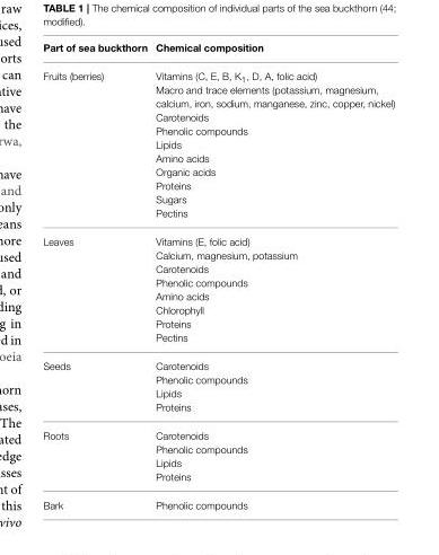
<table><thead><tr><td>Part of sea buckthorn</td><td>Chemical composition</td></tr></thead><tbody><tr><td>Fruits (berries)</td><td>Vitamins (C, E, B, K<sub>1</sub>, D, A, folic acid) Macro and trace elements (potassium, magnesium, calcium, iron, sodium, manganese, zinc, copper, nickel) Carotenoids Phenolic compounds Lipids Amino acids Organic acids Proteins Sugars Pectins</td></tr><tr><td>Leaves</td><td>Vitamins (E, folic acid) Calcium, magnesium, potassium Carotenoids Phenolic compounds Amino acids Chlorophyll Proteins Pectins</td></tr><tr><td>Seeds</td><td>Carotenoids Phenolic compounds Lipids Proteins</td></tr><tr><td>Roots</td><td>Carotenoids Phenolic compounds Lipids Proteins</td></tr><tr><td>Bark</td><td>Phenolic compounds</td></tr></tbody></table>